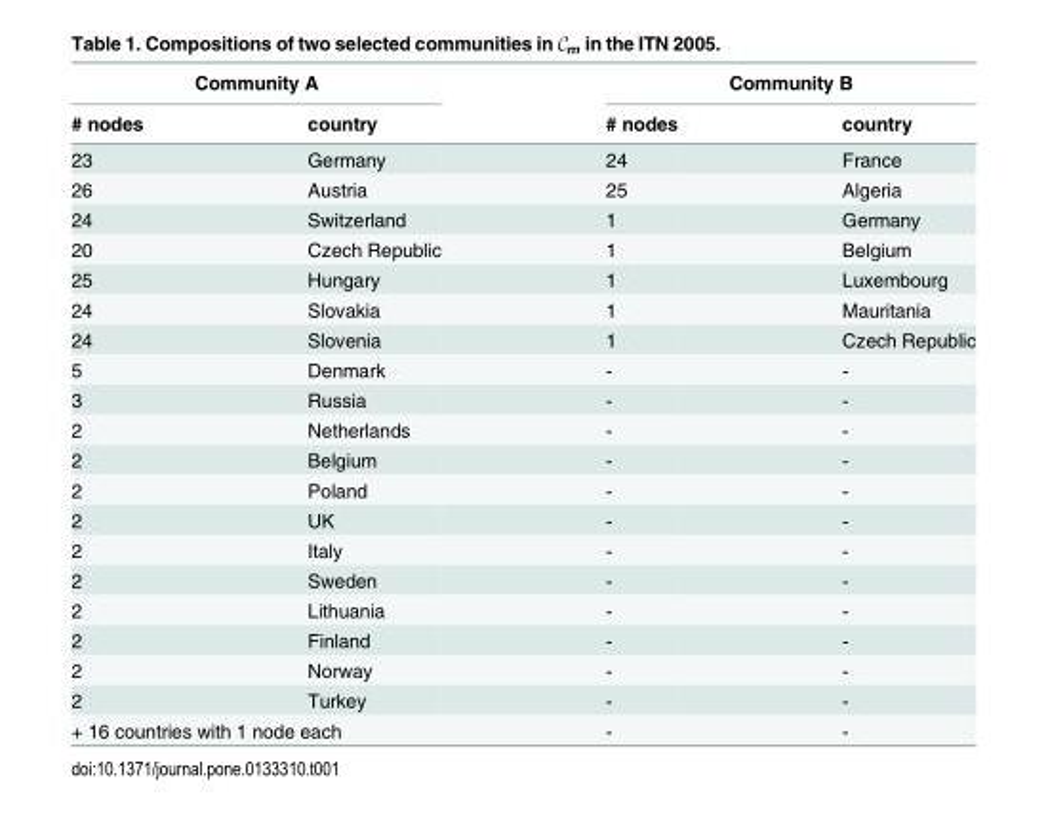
<table><thead><tr><td colspan="2">Community A</td><td colspan="2">Community B</td></tr><tr><td># nodes</td><td>country</td><td># nodes</td><td>country</td></tr></thead><tbody><tr><td>23</td><td>Germany</td><td>24</td><td>France</td></tr><tr><td>26</td><td>Austria</td><td>25</td><td>Algeria</td></tr><tr><td>24</td><td>Switzerland</td><td>1</td><td>Germany</td></tr><tr><td>20</td><td>Czech Republic</td><td>1</td><td>Belgium</td></tr><tr><td>25</td><td>Hungary</td><td>1</td><td>Luxembourg</td></tr><tr><td>24</td><td>Slovakia</td><td>1</td><td>Mauritania</td></tr><tr><td>24</td><td>Slovenia</td><td>1</td><td>Czech Republic</td></tr><tr><td>5</td><td>Denmark</td><td>-</td><td>-</td></tr><tr><td>3</td><td>Russia</td><td>-</td><td>-</td></tr><tr><td>2</td><td>Netherlands</td><td>-</td><td>-</td></tr><tr><td>2</td><td>Belgium</td><td>-</td><td>-</td></tr><tr><td>2</td><td>Poland</td><td>-</td><td>-</td></tr><tr><td>2</td><td>UK</td><td>-</td><td>-</td></tr><tr><td>2</td><td>Italy</td><td>-</td><td>-</td></tr><tr><td>2</td><td>Sweden</td><td>-</td><td>-</td></tr><tr><td>2</td><td>Lithuania</td><td>-</td><td>-</td></tr><tr><td>2</td><td>Finland</td><td>-</td><td>-</td></tr><tr><td>2</td><td>Norway</td><td>-</td><td>-</td></tr><tr><td>2</td><td>Turkey</td><td>-</td><td>-</td></tr><tr><td colspan="2">+ 16 countries with 1 node each</td><td>-</td><td>-</td></tr></tbody></table>